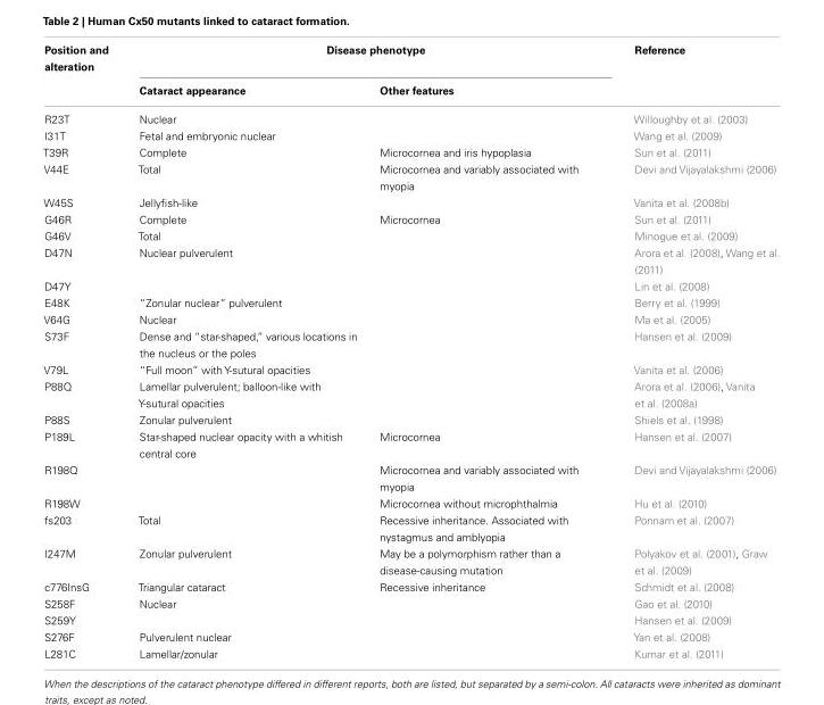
<table><thead><tr><td rowspan="2">Position and alteration</td><td colspan="2">Disease phenotype</td><td rowspan="2">Reference</td></tr><tr><td>Cataract appearance</td><td>Other features</td></tr></thead><tbody><tr><td>R23T</td><td>Nuclear</td><td></td><td>Willoughby et al. (2003)</td></tr><tr><td>I31T</td><td>Fetal and embryonic nuclear</td><td></td><td>Wang et al. (2009)</td></tr><tr><td>T39R</td><td>Complete</td><td>Microcornea and iris hypoplasia</td><td>Sun et al. (2011)</td></tr><tr><td>V44E</td><td>Total</td><td>Microcornea and variably associated with myopia</td><td>Devi and Vijayalakshmi (2006)</td></tr><tr><td>W45S</td><td>Jellyfish-like</td><td></td><td>Vanita et al. (2008b)</td></tr><tr><td>G46R</td><td>Complete</td><td>Microcornea</td><td>Sun et al. (2011)</td></tr><tr><td>G46V</td><td>Total</td><td></td><td>Minogue et al. (2009)</td></tr><tr><td>D47N</td><td>Nuclear pulverulent</td><td></td><td>Arora et al. (2008), Wang et al. (2011)</td></tr><tr><td>D47Y</td><td></td><td></td><td>Lin et al. (2008)</td></tr><tr><td>E48K</td><td>“Zonular nuclear” pulverulent</td><td></td><td>Berry et al. (1999)</td></tr><tr><td>V64G</td><td>Nuclear</td><td></td><td>Ma et al. (2005)</td></tr><tr><td>S73F</td><td>Dense and “star-shaped,” various locations in the nucleus or the poles</td><td></td><td>Hansen et al. (2009)</td></tr><tr><td>V79L</td><td>“Full moon” with Y-sutural opacities</td><td></td><td>Vanita et al. (2006)</td></tr><tr><td>P88Q</td><td>Lamellar pulverulent; balloon-like with Y-sutural opacities</td><td></td><td>Arora et al. (2006), Vanita et al. (2008a)</td></tr><tr><td>P88S</td><td>Zonular pulverulent</td><td></td><td>Shiels et al. (1998)</td></tr><tr><td>P189L</td><td>Star-shaped nuclear opacity with a whitish central core</td><td>Microcornea</td><td>Hansen et al. (2007)</td></tr><tr><td>R198Q</td><td></td><td>Microcornea and variably associated with myopia</td><td>Devi and Vijayalakshmi (2006)</td></tr><tr><td>R198W</td><td></td><td>Microcornea without microphthalmia</td><td>Hu et al. (2010)</td></tr><tr><td>fs203</td><td>Total</td><td>Recessive inheritance. Associated with nystagmus and amblyopia</td><td>Ponnam et al. (2007)</td></tr><tr><td>I247M</td><td>Zonular pulverulent</td><td>May be a polymorphism rather than a disease-causing mutation</td><td>Polyakov et al. (2001), Graw et al. (2009)</td></tr><tr><td>c776InsG</td><td>Triangular cataract</td><td>Recessive inheritance</td><td>Schmidt et al. (2008)</td></tr><tr><td>S258F</td><td>Nuclear</td><td></td><td>Gao et al. (2010)</td></tr><tr><td>S259Y</td><td></td><td></td><td>Hansen et al. (2009)</td></tr><tr><td>S276F</td><td>Pulverulent nuclear</td><td></td><td>Yan et al. (2008)</td></tr><tr><td>L281C</td><td>Lamellar/zonular</td><td></td><td>Kumar et al. (2011)</td></tr></tbody></table>